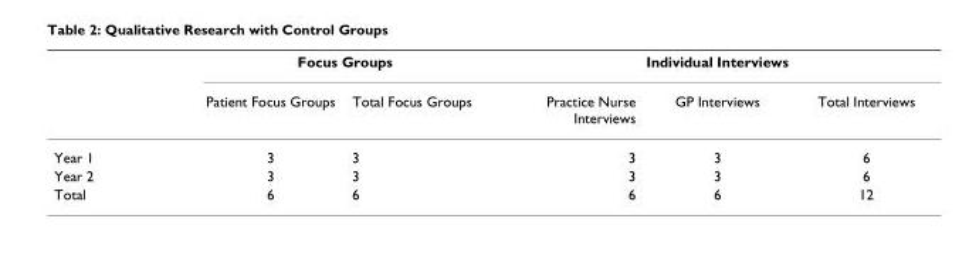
<table><thead><tr><td rowspan="2"></td><td colspan="2">Focus Groups</td><td colspan="3">Individual Interviews</td></tr><tr><td>Patient Focus Groups</td><td>Total Focus Groups</td><td>Practice Nurse Interviews</td><td>GP Interviews</td><td>Total Interviews</td></tr></thead><tbody><tr><td>Year 1</td><td>3</td><td>3</td><td>3</td><td>3</td><td>6</td></tr><tr><td>Year 2</td><td>3</td><td>3</td><td>3</td><td>3</td><td>6</td></tr><tr><td>Total</td><td>6</td><td>6</td><td>6</td><td>6</td><td>12</td></tr></tbody></table>